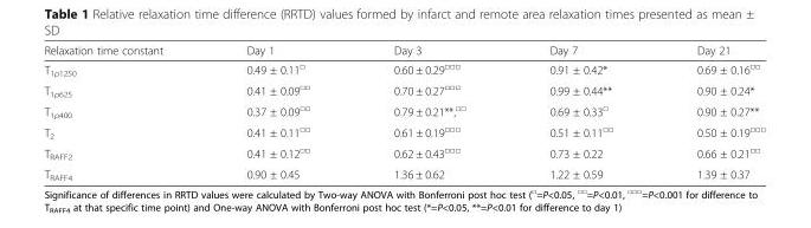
<table><thead><tr><td>Relaxation time constant</td><td>Day 1</td><td>Day 3</td><td>Day 7</td><td>Day 21</td></tr></thead><tbody><tr><td>T<sub>1ρ1250</sub></td><td>0.49 ± 0.11<sup>□</sup></td><td>0.60 ± 0.29<sup>□□□</sup></td><td>0.91 ± 0.42*</td><td>0.69 ± 0.16<sup>□□</sup></td></tr><tr><td>T<sub>1ρ625</sub></td><td>0.41 ± 0.09<sup>□□</sup></td><td>0.70 ± 0.27<sup>□□□</sup></td><td>0.99 ± 0.44**</td><td>0.90 ± 0.24*</td></tr><tr><td>T<sub>1ρ400</sub></td><td>0.37 ± 0.09<sup>□□</sup></td><td>0.79 ± 0.21**,<sup>□□</sup></td><td>0.69 ± 0.33<sup>□</sup></td><td>0.90 ± 0.27**</td></tr><tr><td>T<sub>2</sub></td><td>0.41 ± 0.11<sup>□□</sup></td><td>0.61 ± 0.19<sup>□□□</sup></td><td>0.51 ± 0.11<sup>□□</sup></td><td>0.50 ± 0.19<sup>□□□</sup></td></tr><tr><td>T<sub>RAFF2</sub></td><td>0.41 ± 0.12<sup>□□</sup></td><td>0.62 ± 0.43<sup>□□□</sup></td><td>0.73 ± 0.22</td><td>0.66 ± 0.21<sup>□□</sup></td></tr><tr><td>T<sub>RAFF4</sub></td><td>0.90 ± 0.45</td><td>1.36 ± 0.62</td><td>1.22 ± 0.59</td><td>1.39 ± 0.37</td></tr></tbody></table>